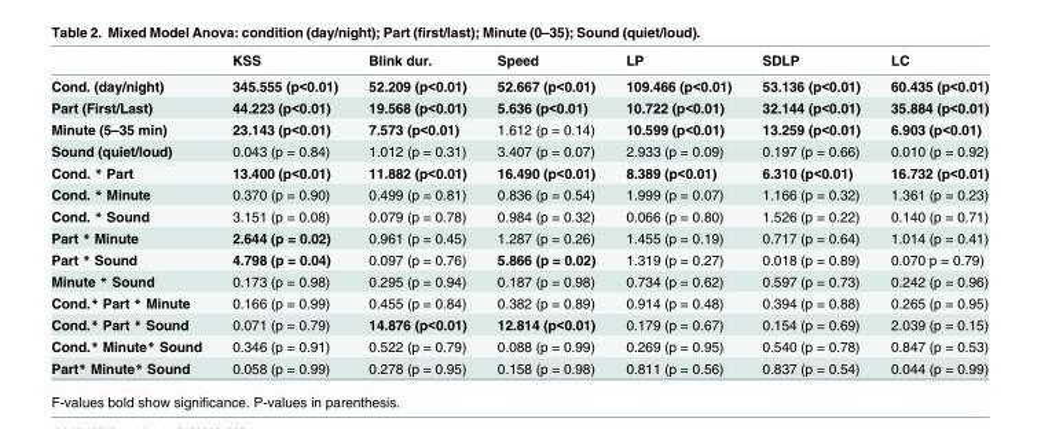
<table><thead><tr><td></td><td>KSS</td><td>Blink dur.</td><td>Speed</td><td>LP</td><td>SDLP</td><td>LC</td></tr></thead><tbody><tr><td>Cond. (day/night)</td><td>345.555 (p&lt;0.01)</td><td>52.209 (p&lt;0.01)</td><td>52.667 (p&lt;0.01)</td><td>109.466 (p&lt;0.01)</td><td>53.136 (p&lt;0.01)</td><td>60.435 (p&lt;0.01)</td></tr><tr><td>Part (First/Last)</td><td>44.223 (p&lt;0.01)</td><td>19.568 (p&lt;0.01)</td><td>5.636 (p&lt;0.01)</td><td>10.722 (p&lt;0.01)</td><td>32.144 (p&lt;0.01)</td><td>35.884 (p&lt;0.01)</td></tr><tr><td>Minute (5–35 min)</td><td>23.143 (p&lt;0.01)</td><td>7.573 (p&lt;0.01)</td><td>1.612 (p = 0.14)</td><td>10.599 (p&lt;0.01)</td><td>13.259 (p&lt;0.01)</td><td>6.903 (p&lt;0.01)</td></tr><tr><td>Sound (quiet/loud)</td><td>0.043 (p = 0.84)</td><td>1.012 (p = 0.31)</td><td>3.407 (p = 0.07)</td><td>2.933 (p = 0.09)</td><td>0.197 (p = 0.66)</td><td>0.010 (p = 0.92)</td></tr><tr><td>Cond. * Part</td><td>13.400 (p&lt;0.01)</td><td>11.882 (p&lt;0.01)</td><td>16.490 (p&lt;0.01)</td><td>8.389 (p&lt;0.01)</td><td>6.310 (p&lt;0.01)</td><td>16.732 (p&lt;0.01)</td></tr><tr><td>Cond. * Minute</td><td>0.370 (p = 0.90)</td><td>0.499 (p = 0.81)</td><td>0.836 (p = 0.54)</td><td>1.999 (p = 0.07)</td><td>1.166 (p = 0.32)</td><td>1.361 (p = 0.23)</td></tr><tr><td>Cond. * Sound</td><td>3.151 (p = 0.08)</td><td>0.079 (p = 0.78)</td><td>0.984 (p = 0.32)</td><td>0.066 (p = 0.80)</td><td>1.526 (p = 0.22)</td><td>0.140 (p = 0.71)</td></tr><tr><td>Part * Minute</td><td>2.644 (p = 0.02)</td><td>0.961 (p = 0.45)</td><td>1.287 (p = 0.26)</td><td>1.455 (p = 0.19)</td><td>0.717 (p = 0.64)</td><td>1.014 (p = 0.41)</td></tr><tr><td>Part * Sound</td><td>4.798 (p = 0.04)</td><td>0.097 (p = 0.76)</td><td>5.866 (p = 0.02)</td><td>1.319 (p = 0.27)</td><td>0.018 (p = 0.89)</td><td>0.070 p = 0.79)</td></tr><tr><td>Minute * Sound</td><td>0.173 (p = 0.98)</td><td>0.295 (p = 0.94)</td><td>0.187 (p = 0.98)</td><td>0.734 (p = 0.62)</td><td>0.597 (p = 0.73)</td><td>0.242 (p = 0.96)</td></tr><tr><td>Cond.* Part * Minute</td><td>0.166 (p = 0.99)</td><td>0.455 (p = 0.84)</td><td>0.382 (p = 0.89)</td><td>0.914 (p = 0.48)</td><td>0.394 (p = 0.88)</td><td>0.265 (p = 0.95)</td></tr><tr><td>Cond.* Part * Sound</td><td>0.071 (p = 0.79)</td><td>14.876 (p&lt;0.01)</td><td>12.814 (p&lt;0.01)</td><td>0.179 (p = 0.67)</td><td>0.154 (p = 0.69)</td><td>2.039 (p = 0.15)</td></tr><tr><td>Cond.* Minute* Sound</td><td>0.346 (p = 0.91)</td><td>0.522 (p = 0.79)</td><td>0.088 (p = 0.99)</td><td>0.269 (p = 0.95)</td><td>0.540 (p = 0.78)</td><td>0.847 (p = 0.53)</td></tr><tr><td>Part* Minute* Sound</td><td>0.058 (p = 0.99)</td><td>0.278 (p = 0.95)</td><td>0.158 (p = 0.98)</td><td>0.811 (p = 0.56)</td><td>0.837 (p = 0.54)</td><td>0.044 (p = 0.99)</td></tr></tbody></table>